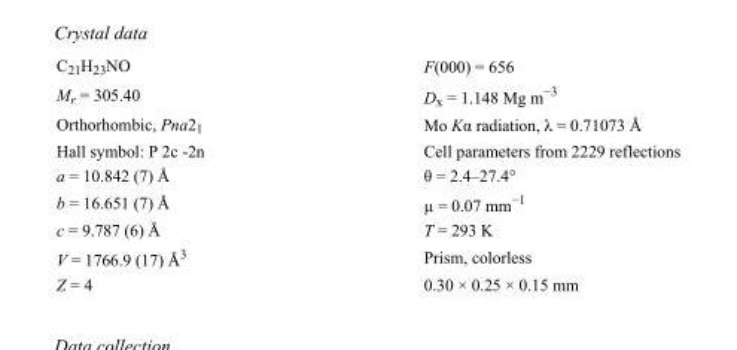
<table><tbody><tr><td>C<sub>21</sub>H<sub>23</sub>NO</td><td>F(000) = 656</td></tr><tr><td>M<sub>r</sub> = 305.40</td><td>D<sub>x</sub> = 1.148 Mg m<sup>−3</sup></td></tr><tr><td>Orthorhombic, Pna2<sub>1</sub></td><td>Mo Kα radiation, λ = 0.71073 Å</td></tr><tr><td>Hall symbol: P 2c -2n</td><td>Cell parameters from 2229 reflections</td></tr><tr><td>a = 10.842 (7) Å</td><td>θ = 2.4–27.4°</td></tr><tr><td>b = 16.651 (7) Å</td><td>µ = 0.07 mm<sup>−1</sup></td></tr><tr><td>c = 9.787 (6) Å</td><td>T = 293 K</td></tr><tr><td>V = 1766.9 (17) Å<sup>3</sup></td><td>Prism, colorless</td></tr><tr><td>Z = 4</td><td>0.30 × 0.25 × 0.15 mm</td></tr></tbody></table>